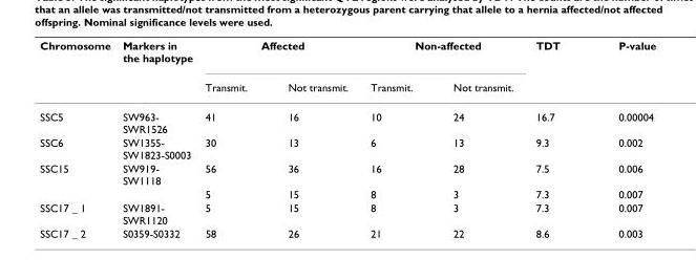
<table><thead><tr><td rowspan="2">Chromosome</td><td rowspan="2">Markers in the haplotype</td><td colspan="2">Affected</td><td colspan="2">Non-affected</td><td rowspan="2">TDT</td><td rowspan="2">P-value</td></tr><tr><td>Transmit.</td><td>Not transmit.</td><td>Transmit.</td><td>Not transmit.</td></tr></thead><tbody><tr><td>SSC5</td><td>SW963- SWR1526</td><td>41</td><td>16</td><td>10</td><td>24</td><td>16.7</td><td>0.00004</td></tr><tr><td>SSC6</td><td>SW1355- SW1823-S0003</td><td>30</td><td>13</td><td>6</td><td>13</td><td>9.3</td><td>0.002</td></tr><tr><td rowspan="2">SSC15</td><td>SW919- SW1118</td><td>56</td><td>36</td><td>16</td><td>28</td><td>7.5</td><td>0.006</td></tr><tr><td></td><td>5</td><td>15</td><td>8</td><td>3</td><td>7.3</td><td>0.007</td></tr><tr><td>SSC17 _ 1</td><td>SW1891- SWR1120</td><td>5</td><td>15</td><td>8</td><td>3</td><td>7.3</td><td>0.007</td></tr><tr><td>SSC17 _ 2</td><td>S0359-S0332</td><td>58</td><td>26</td><td>21</td><td>22</td><td>8.6</td><td>0.003</td></tr></tbody></table>